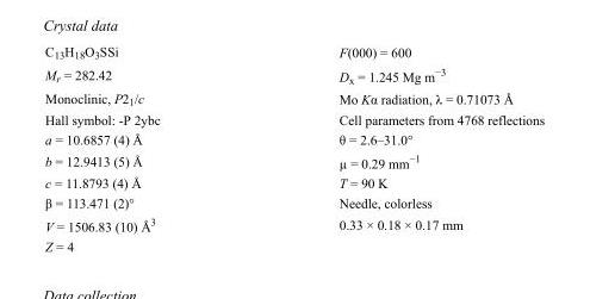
<table><tbody><tr><td>C<sub>13</sub>H<sub>18</sub>O<sub>3</sub>SSi</td><td>F(000) = 600</td></tr><tr><td>M<sub>r</sub> = 282.42</td><td>D<sub>x</sub> = 1.245 Mg m<sup>−3</sup></td></tr><tr><td>Monoclinic, P2<sub>1</sub>/c</td><td>Mo Kα radiation, λ = 0.71073 Å</td></tr><tr><td>Hall symbol: -P 2ybc</td><td>Cell parameters from 4768 reflections</td></tr><tr><td>a = 10.6857 (4) Å</td><td>θ = 2.6–31.0°</td></tr><tr><td>b = 12.9413 (5) Å</td><td>µ = 0.29 mm<sup>−1</sup></td></tr><tr><td>c = 11.8793 (4) Å</td><td>T = 90 K</td></tr><tr><td>β = 113.471 (2)°</td><td>Needle, colorless</td></tr><tr><td>V = 1506.83 (10) Å<sup>3</sup></td><td>0.33 × 0.18 × 0.17 mm</td></tr><tr><td>Z = 4</td><td></td></tr></tbody></table>